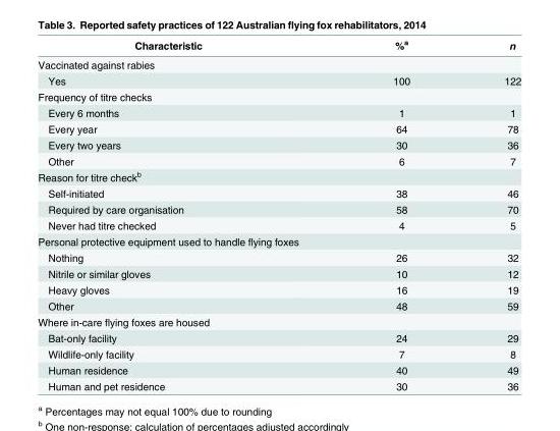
<table><thead><tr><td>Characteristic</td><td>%<sup>a</sup></td><td>n</td></tr></thead><tbody><tr><td colspan="3">Vaccinated against rabies</td></tr><tr><td>Yes</td><td>100</td><td>122</td></tr><tr><td colspan="3">Frequency of titre checks</td></tr><tr><td>Every 6 months</td><td>1</td><td>1</td></tr><tr><td>Every year</td><td>64</td><td>78</td></tr><tr><td>Every two years</td><td>30</td><td>36</td></tr><tr><td>Other</td><td>6</td><td>7</td></tr><tr><td colspan="3">Reason for titre check<sup>b</sup></td></tr><tr><td>Self-initiated</td><td>38</td><td>46</td></tr><tr><td>Required by care organisation</td><td>58</td><td>70</td></tr><tr><td>Never had titre checked</td><td>4</td><td>5</td></tr><tr><td colspan="3">Personal protective equipment used to handle flying foxes</td></tr><tr><td>Nothing</td><td>26</td><td>32</td></tr><tr><td>Nitrile or similar gloves</td><td>10</td><td>12</td></tr><tr><td>Heavy gloves</td><td>16</td><td>19</td></tr><tr><td>Other</td><td>48</td><td>59</td></tr><tr><td colspan="3">Where in-care flying foxes are housed</td></tr><tr><td>Bat-only facility</td><td>24</td><td>29</td></tr><tr><td>Wildlife-only facility</td><td>7</td><td>8</td></tr><tr><td>Human residence</td><td>40</td><td>49</td></tr><tr><td>Human and pet residence</td><td>30</td><td>36</td></tr></tbody></table>